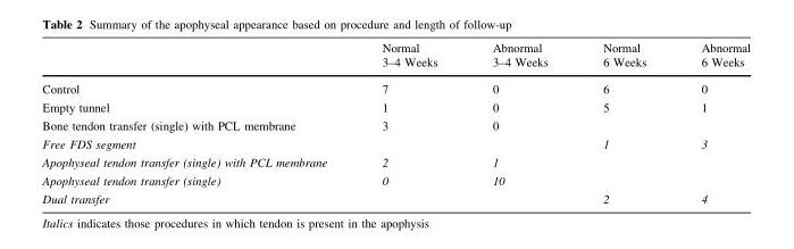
<table><thead><tr><td rowspan="2"></td><td rowspan="2">Normal 3–4 Weeks</td><td rowspan="2">Abnormal 3–4 Weeks</td><td rowspan="2">Normal 6 Weeks</td><td rowspan="2">Abnormal 6 Weeks</td></tr><tr></tr></thead><tbody><tr><td>Control</td><td>7</td><td>0</td><td>6</td><td>0</td></tr><tr><td>Empty tunnel</td><td>1</td><td>0</td><td>5</td><td>1</td></tr><tr><td>Bone tendon transfer (single) with PCL membrane</td><td>3</td><td>0</td><td></td><td></td></tr><tr><td>Free FDS segment</td><td></td><td></td><td>1</td><td>3</td></tr><tr><td>Apophyseal tendon transfer (single) with PCL membrane</td><td>2</td><td>1</td><td></td><td></td></tr><tr><td>Apophyseal tendon transfer (single)</td><td>0</td><td>10</td><td></td><td></td></tr><tr><td>Dual transfer</td><td></td><td></td><td>2</td><td>4</td></tr></tbody></table>